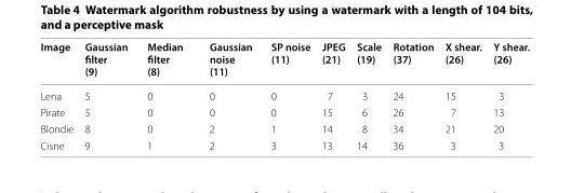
<table><thead><tr><td>Image</td><td>Gaussian filter (9)</td><td>Median filter (8)</td><td>Gaussian noise (11)</td><td>SP noise (11)</td><td>JPEG (21)</td><td>Scale (19)</td><td>Rotation (37)</td><td>X shear. (26)</td><td>Y shear. (26)</td></tr></thead><tbody><tr><td>Lena</td><td>5</td><td>0</td><td>0</td><td>0</td><td>7</td><td>3</td><td>24</td><td>15</td><td>3</td></tr><tr><td>Pirate</td><td>5</td><td>0</td><td>0</td><td>0</td><td>15</td><td>6</td><td>26</td><td>7</td><td>13</td></tr><tr><td>Blondie</td><td>8</td><td>0</td><td>2</td><td>1</td><td>14</td><td>8</td><td>34</td><td>21</td><td>20</td></tr><tr><td>Cisne</td><td>9</td><td>1</td><td>2</td><td>3</td><td>13</td><td>14</td><td>36</td><td>3</td><td>3</td></tr></tbody></table>